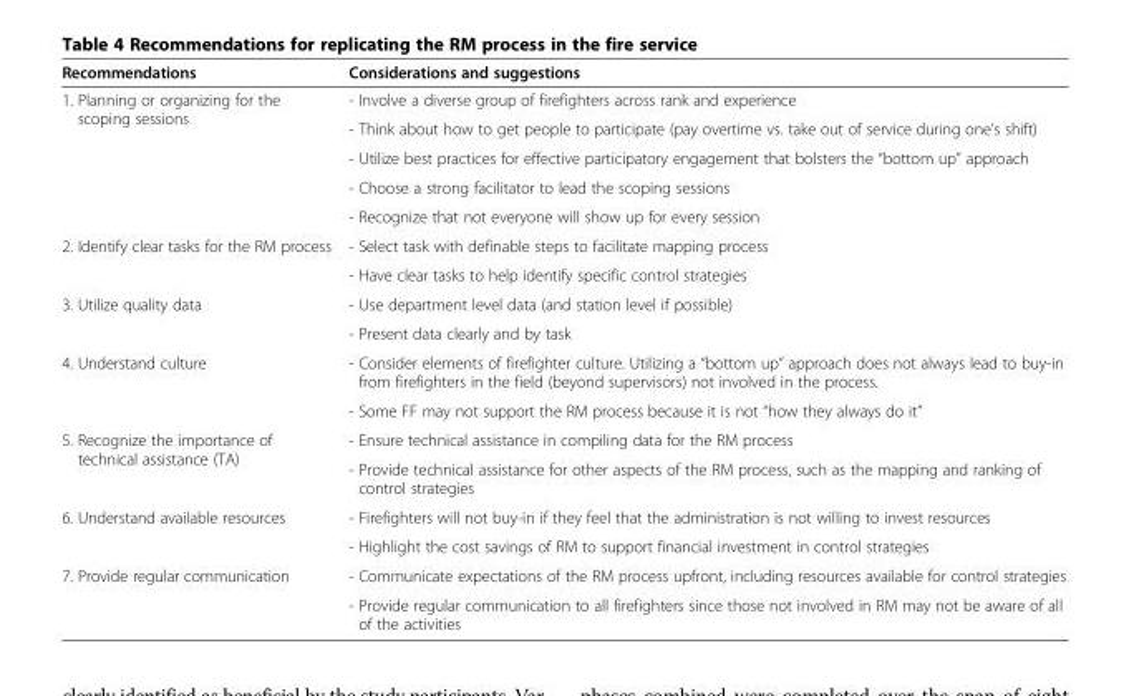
<table><thead><tr><td>Recommendations</td><td>Considerations and suggestions</td></tr></thead><tbody><tr><td rowspan="5">1. Planning or organizing for the scoping sessions</td><td>- Involve a diverse group of firefighters across rank and experience</td></tr><tr><td>- Think about how to get people to participate (pay overtime vs. take out of service during one’s shift)</td></tr><tr><td>- Utilize best practices for effective participatory engagement that bolsters the “bottom up” approach</td></tr><tr><td>- Choose a strong facilitator to lead the scoping sessions</td></tr><tr><td>- Recognize that not everyone will show up for every session</td></tr><tr><td rowspan="2">2. Identify clear tasks for the RM process</td><td>- Select task with definable steps to facilitate mapping process</td></tr><tr><td>- Have clear tasks to help identify specific control strategies</td></tr><tr><td rowspan="2">3. Utilize quality data</td><td>- Use department level data (and station level if possible)</td></tr><tr><td>- Present data clearly and by task</td></tr><tr><td rowspan="2">4. Understand culture</td><td>- Consider elements of firefighter culture. Utilizing a “bottom up” approach does not always lead to buy-in from firefighters in the field (beyond supervisors) not involved in the process.</td></tr><tr><td>- Some FF may not support the RM process because it is not “how they always do it”</td></tr><tr><td rowspan="2">5. Recognize the importance of technical assistance (TA)</td><td>- Ensure technical assistance in compiling data for the RM process</td></tr><tr><td>- Provide technical assistance for other aspects of the RM process, such as the mapping and ranking of control strategies</td></tr><tr><td rowspan="2">6. Understand available resources</td><td>- Firefighters will not buy-in if they feel that the administration is not willing to invest resources</td></tr><tr><td>- Highlight the cost savings of RM to support financial investment in control strategies</td></tr><tr><td rowspan="2">7. Provide regular communication</td><td>- Communicate expectations of the RM process upfront, including resources available for control strategies</td></tr><tr><td>- Provide regular communication to all firefighters since those not involved in RM may not be aware of all of the activities</td></tr></tbody></table>